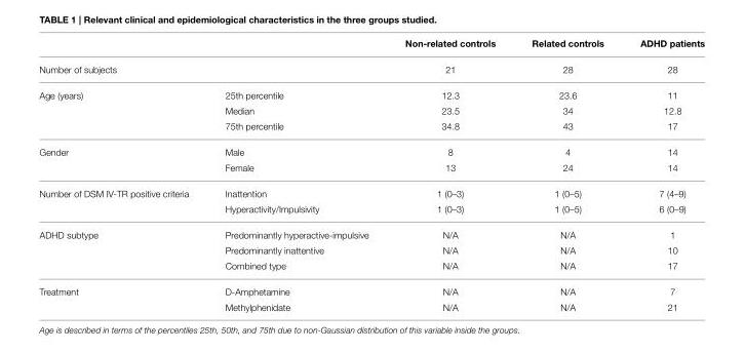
<table><thead><tr><td></td><td></td><td>Non-related controls</td><td>Related controls</td><td>ADHD patients</td></tr></thead><tbody><tr><td colspan="2">Number of subjects</td><td>21</td><td>28</td><td>28</td></tr><tr><td rowspan="3">Age (years)</td><td>25th percentile</td><td>12.3</td><td>23.6</td><td>11</td></tr><tr><td>Median</td><td>23.5</td><td>34</td><td>12.8</td></tr><tr><td>75th percentile</td><td>34.8</td><td>43</td><td>17</td></tr><tr><td rowspan="2">Gender</td><td>Male</td><td>8</td><td>4</td><td>14</td></tr><tr><td>Female</td><td>13</td><td>24</td><td>14</td></tr><tr><td rowspan="2">Number of DSM IV-TR positive criteria</td><td>Inattention</td><td>1 (0–3)</td><td>1 (0–5)</td><td>7 (4–9)</td></tr><tr><td>Hyperactivity/Impulsivity</td><td>1 (0–3)</td><td>1 (0–5)</td><td>6 (0–9)</td></tr><tr><td rowspan="3">ADHD subtype</td><td>Predominantly hyperactive-impulsive</td><td>N/A</td><td>N/A</td><td>1</td></tr><tr><td>Predominantly inattentive</td><td>N/A</td><td>N/A</td><td>10</td></tr><tr><td>Combined type</td><td>N/A</td><td>N/A</td><td>17</td></tr><tr><td rowspan="2">Treatment</td><td>D-Amphetamine</td><td>N/A</td><td>N/A</td><td>7</td></tr><tr><td>Methylphenidate</td><td>N/A</td><td>N/A</td><td>21</td></tr></tbody></table>